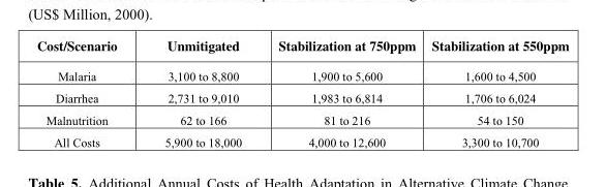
<table><thead><tr><td>Cost/Scenario</td><td>Unmitigated</td><td>Stabilization at 750ppm</td><td>Stabilization at 550ppm</td></tr></thead><tbody><tr><td>Malaria</td><td>3,100 to 8,800</td><td>1,900 to 5,600</td><td>1,600 to 4,500</td></tr><tr><td>Diarrhea</td><td>2,731 to 9,010</td><td>1,983 to 6,814</td><td>1,706 to 6,024</td></tr><tr><td>Malnutrition</td><td>62 to 166</td><td>81 to 216</td><td>54 to 150</td></tr><tr><td>All Costs</td><td>5,900 to 18,000</td><td>4,000 to 12,600</td><td>3,300 to 10,700</td></tr></tbody></table>